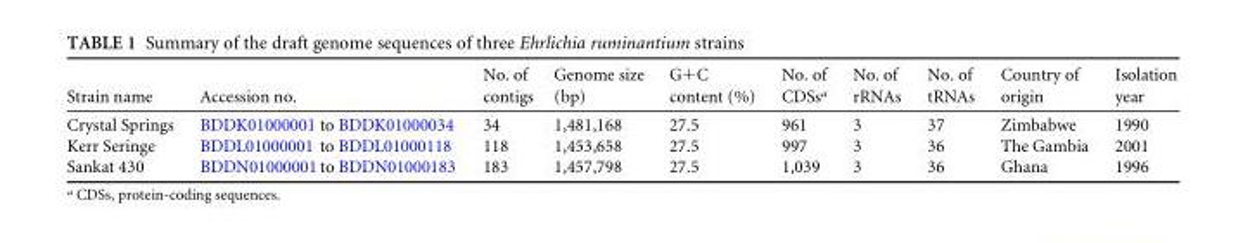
<table><thead><tr><td>Strain name</td><td>Accession no.</td><td>No. of contigs</td><td>Genome size (bp)</td><td>G+C content (%)</td><td>No. of CDSs<sup>a</sup></td><td>No. of rRNAs</td><td>No. of tRNAs</td><td>Country of origin</td><td>Isolation year</td></tr></thead><tbody><tr><td>Crystal Springs</td><td>BDDK01000001 to BDDK01000034</td><td>34</td><td>1,481,168</td><td>27.5</td><td>961</td><td>3</td><td>37</td><td>Zimbabwe</td><td>1990</td></tr><tr><td>Kerr Seringe</td><td>BDDL01000001 to BDDL01000118</td><td>118</td><td>1,453,658</td><td>27.5</td><td>997</td><td>3</td><td>36</td><td>The Gambia</td><td>2001</td></tr><tr><td>Sankat 430</td><td>BDDN01000001 to BDDN01000183</td><td>183</td><td>1,457,798</td><td>27.5</td><td>1,039</td><td>3</td><td>36</td><td>Ghana</td><td>1996</td></tr></tbody></table>